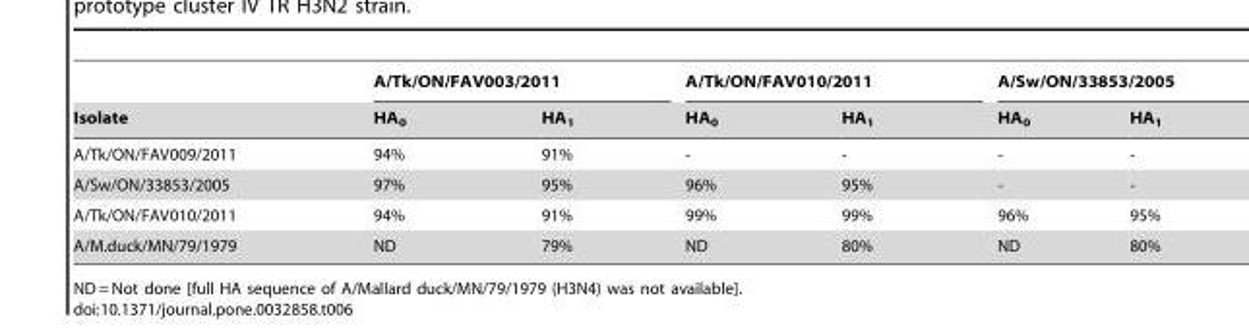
<table><thead><tr><td rowspan="2">Isolate</td><td colspan="2">A/Tk/ON/FAV003/2011</td><td colspan="2">A/Tk/ON/FAV010/2011</td><td colspan="2">A/Sw/ON/33853/2005</td></tr><tr><td>HA<sub>0</sub></td><td>HA<sub>1</sub></td><td>HA<sub>0</sub></td><td>HA<sub>1</sub></td><td>HA<sub>0</sub></td><td>HA<sub>1</sub></td></tr></thead><tbody><tr><td>A/Tk/ON/FAV009/2011</td><td>94%</td><td>91%</td><td>-</td><td>-</td><td>-</td><td>-</td></tr><tr><td>A/Sw/ON/33853/2005</td><td>97%</td><td>95%</td><td>96%</td><td>95%</td><td>-</td><td>-</td></tr><tr><td>A/Tk/ON/FAV010/2011</td><td>94%</td><td>91%</td><td>99%</td><td>99%</td><td>96%</td><td>95%</td></tr><tr><td>A/M.duck/MN/79/1979</td><td>ND</td><td>79%</td><td>ND</td><td>80%</td><td>ND</td><td>80%</td></tr></tbody></table>